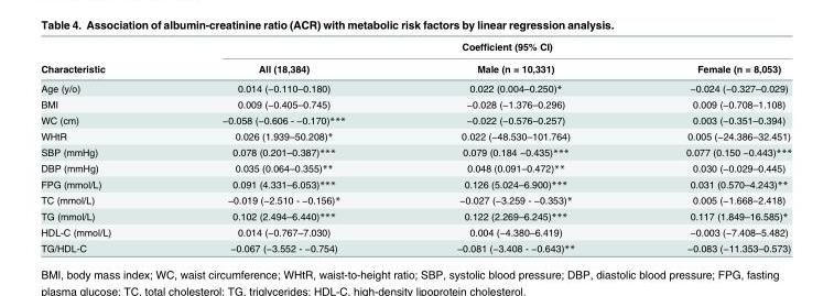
<table><thead><tr><td rowspan="2">Characteristic</td><td colspan="3">Coefficient (95% CI)</td></tr><tr><td>All (18,384)</td><td>Male (n = 10,331)</td><td>Female (n = 8,053)</td></tr></thead><tbody><tr><td>Age (y/o)</td><td>0.014 (−0.110–0.180)</td><td>0.022 (0.004–0.250)*</td><td>−0.024 (−0.327–0.029)</td></tr><tr><td>BMI</td><td>0.009 (−0.405–0.745)</td><td>−0.028 (−1.376–0.296)</td><td>0.009 (−0.708–1.108)</td></tr><tr><td>WC (cm)</td><td>−0.058 (−0.606 - −0.170)***</td><td>−0.022 (−0.576–0.257)</td><td>0.003 (−0.351–0.394)</td></tr><tr><td>WHtR</td><td>0.026 (1.939–50.208)*</td><td>0.022 (−48.530–101.764)</td><td>0.005 (−24.386–32.451)</td></tr><tr><td>SBP (mmHg)</td><td>0.078 (0.201–0.387)***</td><td>0.079 (0.184 −0.435)***</td><td>0.077 (0.150 −0.443)***</td></tr><tr><td>DBP (mmHg)</td><td>0.035 (0.064–0.355)**</td><td>0.048 (0.091–0.472)**</td><td>0.030 (−0.029–0.445)</td></tr><tr><td>FPG (mmol/L)</td><td>0.091 (4.331–6.053)***</td><td>0.126 (5.024–6.900)***</td><td>0.031 (0.570–4.243)**</td></tr><tr><td>TC (mmol/L)</td><td>−0.019 (−2.510 - −0.156)*</td><td>−0.027 (−3.259 - −0.353)*</td><td>0.005 (−1.668–2.418)</td></tr><tr><td>TG (mmol/L)</td><td>0.102 (2.494–6.440)***</td><td>0.122 (2.269–6.245)***</td><td>0.117 (1.849–16.585)*</td></tr><tr><td>HDL-C (mmol/L)</td><td>0.014 (−0.767–7.030)</td><td>0.004 (−4.380–6.419)</td><td>−0.003 (−7.408–5.482)</td></tr><tr><td>TG/HDL-C</td><td>−0.067 (−3.552 - −0.754)</td><td>−0.081 (−3.408 - −0.643)**</td><td>−0.083 (−11.353–0.573)</td></tr></tbody></table>